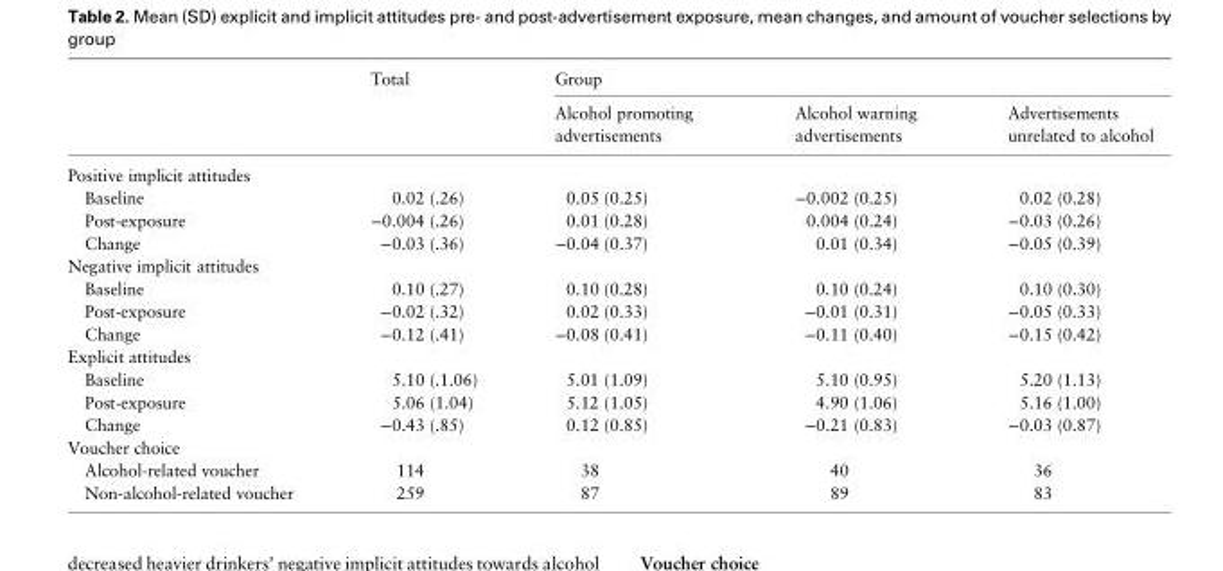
<table><thead><tr><td rowspan="2"></td><td rowspan="2">Total</td><td colspan="3">Group</td></tr><tr><td>Alcohol promoting advertisements</td><td>Alcohol warning advertisements</td><td>Advertisements unrelated to alcohol</td></tr></thead><tbody><tr><td colspan="5">Positive implicit attitudes</td></tr><tr><td>Baseline</td><td>0.02 (.26)</td><td>0.05 (0.25)</td><td>−0.002 (0.25)</td><td>0.02 (0.28)</td></tr><tr><td>Post-exposure</td><td>−0.004 (.26)</td><td>0.01 (0.28)</td><td>0.004 (0.24)</td><td>−0.03 (0.26)</td></tr><tr><td>Change</td><td>−0.03 (.36)</td><td>−0.04 (0.37)</td><td>0.01 (0.34)</td><td>−0.05 (0.39)</td></tr><tr><td colspan="5">Negative implicit attitudes</td></tr><tr><td>Baseline</td><td>0.10 (.27)</td><td>0.10 (0.28)</td><td>0.10 (0.24)</td><td>0.10 (0.30)</td></tr><tr><td>Post-exposure</td><td>−0.02 (.32)</td><td>0.02 (0.33)</td><td>−0.01 (0.31)</td><td>−0.05 (0.33)</td></tr><tr><td>Change</td><td>−0.12 (.41)</td><td>−0.08 (0.41)</td><td>−0.11 (0.40)</td><td>−0.15 (0.42)</td></tr><tr><td colspan="5">Explicit attitudes</td></tr><tr><td>Baseline</td><td>5.10 (.1.06)</td><td>5.01 (1.09)</td><td>5.10 (0.95)</td><td>5.20 (1.13)</td></tr><tr><td>Post-exposure</td><td>5.06 (1.04)</td><td>5.12 (1.05)</td><td>4.90 (1.06)</td><td>5.16 (1.00)</td></tr><tr><td>Change</td><td>−0.43 (.85)</td><td>0.12 (0.85)</td><td>−0.21 (0.83)</td><td>−0.03 (0.87)</td></tr><tr><td colspan="5">Voucher choice</td></tr><tr><td>Alcohol-related voucher</td><td>114</td><td>38</td><td>40</td><td>36</td></tr><tr><td>Non-alcohol-related voucher</td><td>259</td><td>87</td><td>89</td><td>83</td></tr></tbody></table>